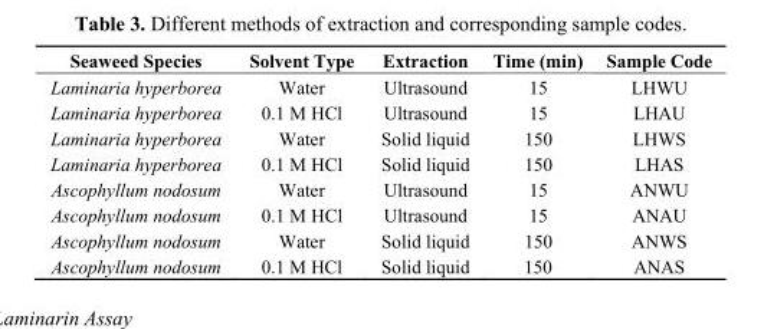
<table><thead><tr><td>Seaweed Species</td><td>Solvent Type</td><td>Extraction</td><td>Time (min)</td><td>Sample Code</td></tr></thead><tbody><tr><td>Laminaria hyperborea</td><td>Water</td><td>Ultrasound</td><td>15</td><td>LHWU</td></tr><tr><td>Laminaria hyperborea</td><td>0.1 M HCl</td><td>Ultrasound</td><td>15</td><td>LHAU</td></tr><tr><td>Laminaria hyperborea</td><td>Water</td><td>Solid liquid</td><td>150</td><td>LHWS</td></tr><tr><td>Laminaria hyperborea</td><td>0.1 M HCl</td><td>Solid liquid</td><td>150</td><td>LHAS</td></tr><tr><td>Ascophyllum nodosum</td><td>Water</td><td>Ultrasound</td><td>15</td><td>ANWU</td></tr><tr><td>Ascophyllum nodosum</td><td>0.1 M HCl</td><td>Ultrasound</td><td>15</td><td>ANAU</td></tr><tr><td>Ascophyllum nodosum</td><td>Water</td><td>Solid liquid</td><td>150</td><td>ANWS</td></tr><tr><td>Ascophyllum nodosum</td><td>0.1 M HCl</td><td>Solid liquid</td><td>150</td><td>ANAS</td></tr></tbody></table>